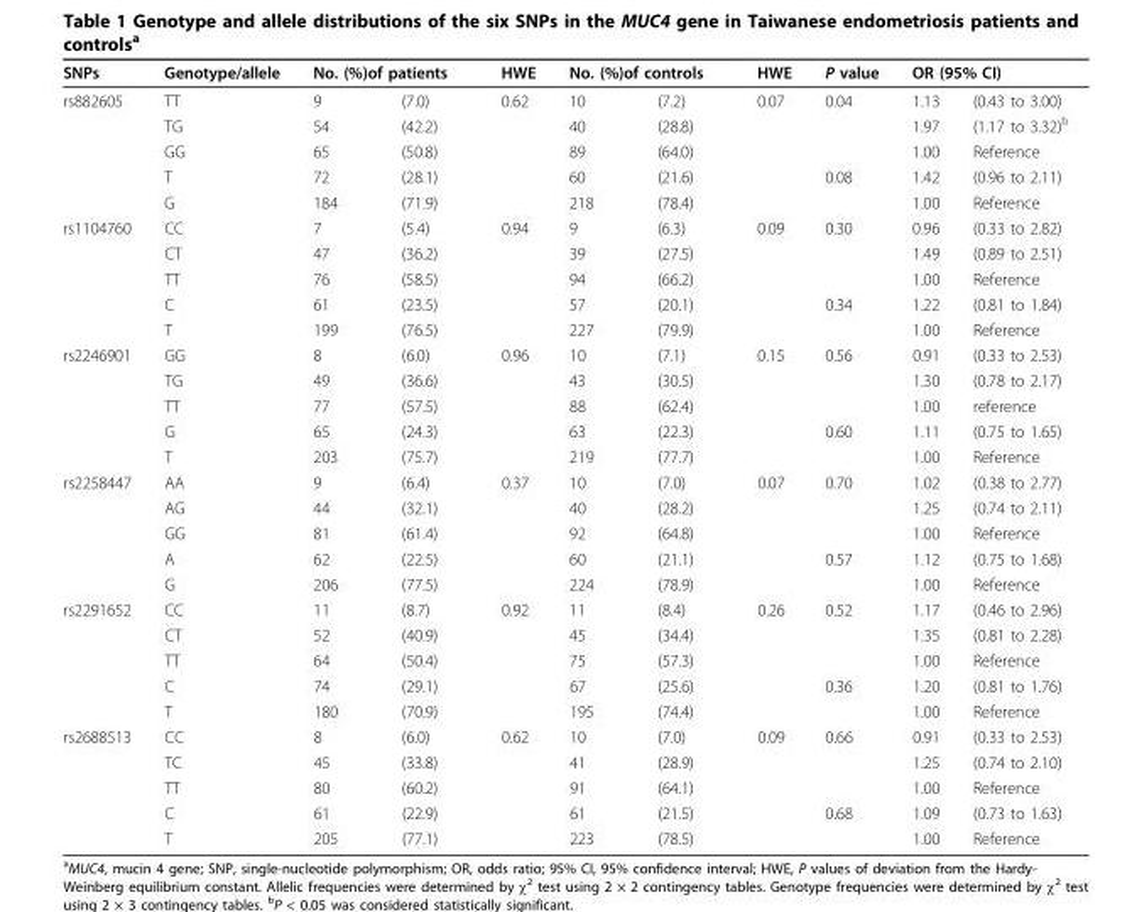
<table><thead><tr><td rowspan="2">SNPs rs882605</td><td rowspan="2">Genotype/allele TT</td><td colspan="2">No. (%)of patients</td><td rowspan="2">HWE 0.62</td><td colspan="2">No. (%)of controls</td><td rowspan="2">HWE 0.07</td><td rowspan="2">P value 0.04</td><td colspan="2">OR (95% CI)</td></tr><tr><td>9</td><td>(7.0)</td><td>10</td><td>(7.2)</td><td>1.13</td><td>(0.43 to 3.00)</td></tr></thead><tbody><tr><td></td><td>TG</td><td>54</td><td>(42.2)</td><td></td><td>40</td><td>(28.8)</td><td></td><td></td><td>1.97</td><td>(1.17 to 3.32)<sup>b</sup></td></tr><tr><td></td><td>GG</td><td>65</td><td>(50.8)</td><td></td><td>89</td><td>(64.0)</td><td></td><td></td><td>1.00</td><td>Reference</td></tr><tr><td></td><td>T</td><td>72</td><td>(28.1)</td><td></td><td>60</td><td>(21.6)</td><td></td><td>0.08</td><td>1.42</td><td>(0.96 to 2.11)</td></tr><tr><td></td><td>G</td><td>184</td><td>(71.9)</td><td></td><td>218</td><td>(78.4)</td><td></td><td></td><td>1.00</td><td>Reference</td></tr><tr><td rowspan="5">rs1104760</td><td>CC</td><td>7</td><td>(5.4)</td><td>0.94</td><td>9</td><td>(6.3)</td><td>0.09</td><td>0.30</td><td>0.96</td><td>(0.33 to 2.82)</td></tr><tr><td>CT</td><td>47</td><td>(36.2)</td><td></td><td>39</td><td>(27.5)</td><td></td><td></td><td>1.49</td><td>(0.89 to 2.51)</td></tr><tr><td>TT</td><td>76</td><td>(58.5)</td><td></td><td>94</td><td>(66.2)</td><td></td><td></td><td>1.00</td><td>Reference</td></tr><tr><td>C</td><td>61</td><td>(23.5)</td><td></td><td>57</td><td>(20.1)</td><td></td><td>0.34</td><td>1.22</td><td>(0.81 to 1.84)</td></tr><tr><td>T</td><td>199</td><td>(76.5)</td><td></td><td>227</td><td>(79.9)</td><td></td><td></td><td>1.00</td><td>Reference</td></tr><tr><td rowspan="5">rs2246901</td><td>GG</td><td>8</td><td>(6.0)</td><td>0.96</td><td>10</td><td>(7.1)</td><td>0.15</td><td>0.56</td><td>0.91</td><td>(0.33 to 2.53)</td></tr><tr><td>TG</td><td>49</td><td>(36.6)</td><td></td><td>43</td><td>(30.5)</td><td></td><td></td><td>1.30</td><td>(0.78 to 2.17)</td></tr><tr><td>TT</td><td>77</td><td>(57.5)</td><td></td><td>88</td><td>(62.4)</td><td></td><td></td><td>1.00</td><td>reference</td></tr><tr><td>G</td><td>65</td><td>(24.3)</td><td></td><td>63</td><td>(22.3)</td><td></td><td>0.60</td><td>1.11</td><td>(0.75 to 1.65)</td></tr><tr><td>T</td><td>203</td><td>(75.7)</td><td></td><td>219</td><td>(77.7)</td><td></td><td></td><td>1.00</td><td>Reference</td></tr><tr><td rowspan="5">rs2258447</td><td>AA</td><td>9</td><td>(6.4)</td><td>0.37</td><td>10</td><td>(7.0)</td><td>0.07</td><td>0.70</td><td>1.02</td><td>(0.38 to 2.77)</td></tr><tr><td>AG</td><td>44</td><td>(32.1)</td><td></td><td>40</td><td>(28.2)</td><td></td><td></td><td>1.25</td><td>(0.74 to 2.11)</td></tr><tr><td>GG</td><td>81</td><td>(61.4)</td><td></td><td>92</td><td>(64.8)</td><td></td><td></td><td>1.00</td><td>Reference</td></tr><tr><td>A</td><td>62</td><td>(22.5)</td><td></td><td>60</td><td>(21.1)</td><td></td><td>0.57</td><td>1.12</td><td>(0.75 to 1.68)</td></tr><tr><td>G</td><td>206</td><td>(77.5)</td><td></td><td>224</td><td>(78.9)</td><td></td><td></td><td>1.00</td><td>Reference</td></tr><tr><td rowspan="5">rs2291652</td><td>CC</td><td>11</td><td>(8.7)</td><td>0.92</td><td>11</td><td>(8.4)</td><td>0.26</td><td>0.52</td><td>1.17</td><td>(0.46 to 2.96)</td></tr><tr><td>CT</td><td>52</td><td>(40.9)</td><td></td><td>45</td><td>(34.4)</td><td></td><td></td><td>1.35</td><td>(0.81 to 2.28)</td></tr><tr><td>TT</td><td>64</td><td>(50.4)</td><td></td><td>75</td><td>(57.3)</td><td></td><td></td><td>1.00</td><td>Reference</td></tr><tr><td>C</td><td>74</td><td>(29.1)</td><td></td><td>67</td><td>(25.6)</td><td></td><td>0.36</td><td>1.20</td><td>(0.81 to 1.76)</td></tr><tr><td>T</td><td>180</td><td>(70.9)</td><td></td><td>195</td><td>(74.4)</td><td></td><td></td><td>1.00</td><td>Reference</td></tr><tr><td rowspan="5">rs2688513</td><td>CC</td><td>8</td><td>(6.0)</td><td>0.62</td><td>10</td><td>(7.0)</td><td>0.09</td><td>0.66</td><td>0.91</td><td>(0.33 to 2.53)</td></tr><tr><td>TC</td><td>45</td><td>(33.8)</td><td></td><td>41</td><td>(28.9)</td><td></td><td></td><td>1.25</td><td>(0.74 to 2.10)</td></tr><tr><td>TT</td><td>80</td><td>(60.2)</td><td></td><td>91</td><td>(64.1)</td><td></td><td></td><td>1.00</td><td>Reference</td></tr><tr><td>C</td><td>61</td><td>(22.9)</td><td></td><td>61</td><td>(21.5)</td><td></td><td>0.68</td><td>1.09</td><td>(0.73 to 1.63)</td></tr><tr><td>T</td><td>205</td><td>(77.1)</td><td></td><td>223</td><td>(78.5)</td><td></td><td></td><td>1.00</td><td>Reference</td></tr></tbody></table>